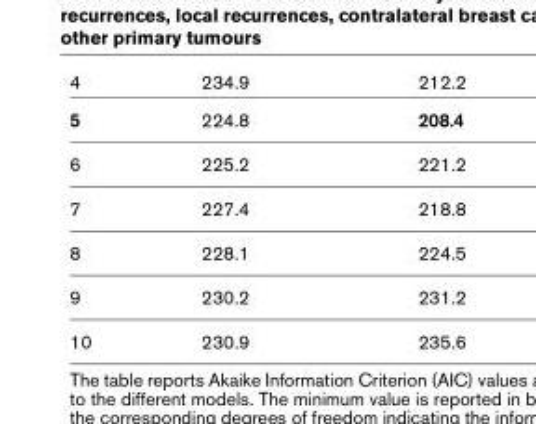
<table><thead><tr><td>4</td><td>234.9</td><td>212.2</td></tr></thead><tbody><tr><td>5</td><td>224.8</td><td>208.4</td></tr><tr><td>6</td><td>225.2</td><td>221.2</td></tr><tr><td>7</td><td>227.4</td><td>218.8</td></tr><tr><td>8</td><td>228.1</td><td>224.5</td></tr><tr><td>9</td><td>230.2</td><td>231.2</td></tr><tr><td>10</td><td>230.9</td><td>235.6</td></tr></tbody></table>